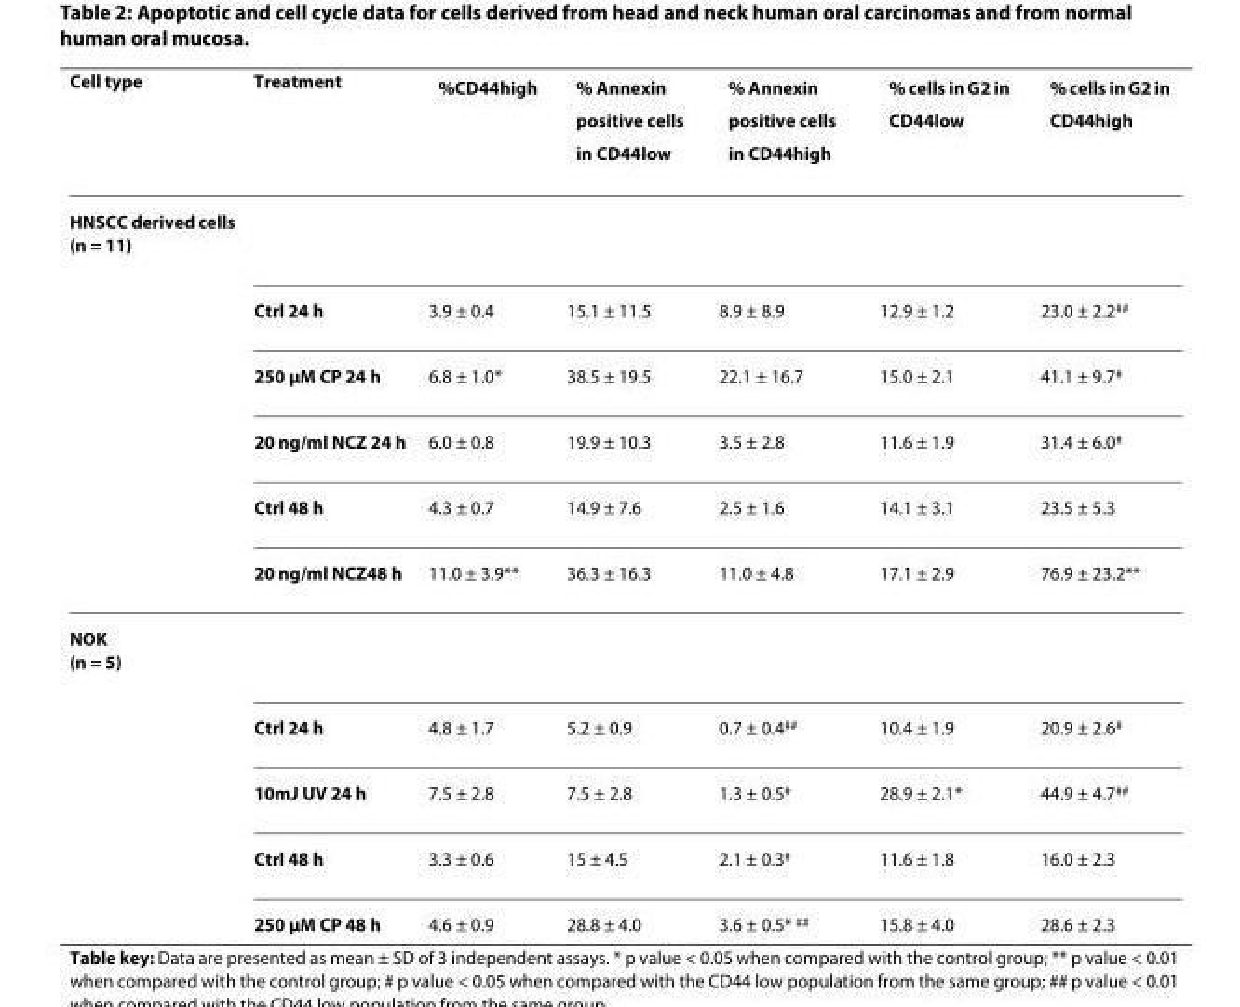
<table><thead><tr><td>Cell type</td><td>Treatment</td><td>%CD44<sup>high</sup></td><td>% Annexin positive cells in CD44<sup>low</sup></td><td>% Annexin positive cells in CD44<sup>high</sup></td><td>% cells in G2 in CD44<sup>low</sup></td><td>% cells in G2 in CD44<sup>high</sup></td></tr></thead><tbody><tr><td colspan="7">HNSCC derived cells (n = 11)</td></tr><tr><td></td><td>Ctrl 24 h</td><td>3.9 ± 0.4</td><td>15.1 ± 11.5</td><td>8.9 ± 8.9</td><td>12.9 ± 1.2</td><td>23.0 ± 2.2<sup>##</sup></td></tr><tr><td></td><td>250 μM CP 24 h</td><td>6.8 ± 1.0*</td><td>38.5 ± 19.5</td><td>22.1 ± 16.7</td><td>15.0 ± 2.1</td><td>41.1 ± 9.7<sup>#</sup></td></tr><tr><td></td><td>20 ng/ml NCZ 24 h</td><td>6.0 ± 0.8</td><td>19.9 ± 10.3</td><td>3.5 ± 2.8</td><td>11.6 ± 1.9</td><td>31.4 ± 6.0<sup>#</sup></td></tr><tr><td></td><td>Ctrl 48 h</td><td>4.3 ± 0.7</td><td>14.9 ± 7.6</td><td>2.5 ± 1.6</td><td>14.1 ± 3.1</td><td>23.5 ± 5.3</td></tr><tr><td></td><td>20 ng/ml NCZ48 h</td><td>11.0 ± 3.9**</td><td>36.3 ± 16.3</td><td>11.0 ± 4.8</td><td>17.1 ± 2.9</td><td>76.9 ± 23.2**</td></tr><tr><td colspan="7">NOK (n = 5)</td></tr><tr><td></td><td>Ctrl 24 h</td><td>4.8 ± 1.7</td><td>5.2 ± 0.9</td><td>0.7 ± 0.4<sup>##</sup></td><td>10.4 ± 1.9</td><td>20.9 ± 2.6<sup>#</sup></td></tr><tr><td></td><td>10mJ UV 24 h</td><td>7.5 ± 2.8</td><td>7.5 ± 2.8</td><td>1.3 ± 0.5<sup>#</sup></td><td>28.9 ± 2.1*</td><td>44.9 ± 4.7<sup>##</sup></td></tr><tr><td></td><td>Ctrl 48 h</td><td>3.3 ± 0.6</td><td>15 ± 4.5</td><td>2.1 ± 0.3<sup>#</sup></td><td>11.6 ± 1.8</td><td>16.0 ± 2.3</td></tr><tr><td></td><td>250 μM CP 48 h</td><td>4.6 ± 0.9</td><td>28.8 ± 4.0</td><td>3.6 ± 0.5* <sup>##</sup></td><td>15.8 ± 4.0</td><td>28.6 ± 2.3</td></tr></tbody></table>